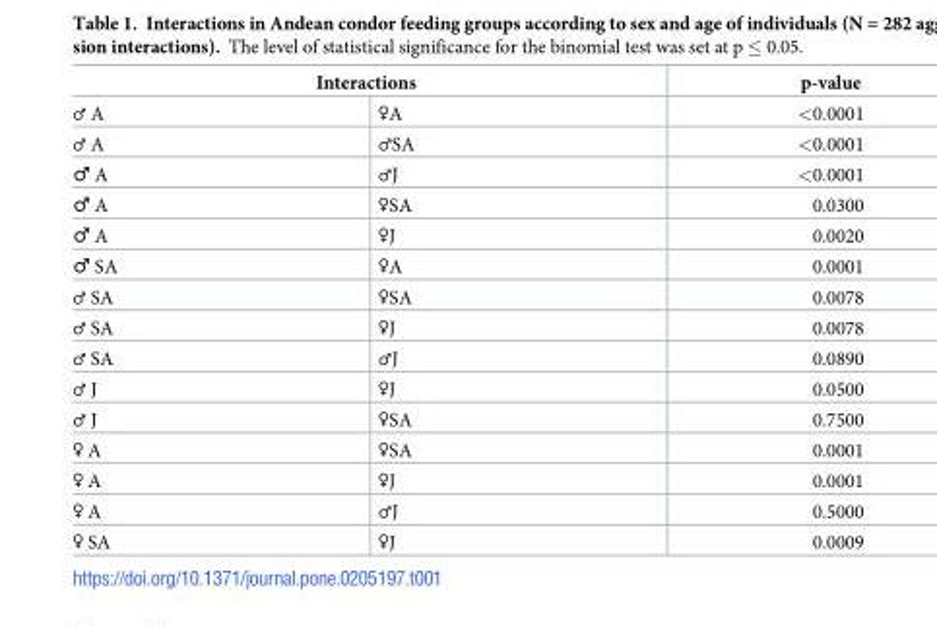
<table><thead><tr><td colspan="2">Interactions</td><td rowspan="2">p-value &lt;0.0001</td></tr><tr><td>♂ A</td><td>♀A</td></tr></thead><tbody><tr><td>♂ A</td><td>♂SA</td><td>&lt;0.0001</td></tr><tr><td>♂ A</td><td>♂J</td><td>&lt;0.0001</td></tr><tr><td>♂ A</td><td>♀SA</td><td>0.0300</td></tr><tr><td>♂ A</td><td>♀J</td><td>0.0020</td></tr><tr><td>♂ SA</td><td>♀A</td><td>0.0001</td></tr><tr><td>♂ SA</td><td>♀SA</td><td>0.0078</td></tr><tr><td>♂ SA</td><td>♀J</td><td>0.0078</td></tr><tr><td>♂ SA</td><td>♂J</td><td>0.0890</td></tr><tr><td>♂ J</td><td>♀J</td><td>0.0500</td></tr><tr><td>♂ J</td><td>♀SA</td><td>0.7500</td></tr><tr><td>♀ A</td><td>♀SA</td><td>0.0001</td></tr><tr><td>♀ A</td><td>♀J</td><td>0.0001</td></tr><tr><td>♀ A</td><td>♂J</td><td>0.5000</td></tr><tr><td>♀ SA</td><td>♀J</td><td>0.0009</td></tr></tbody></table>